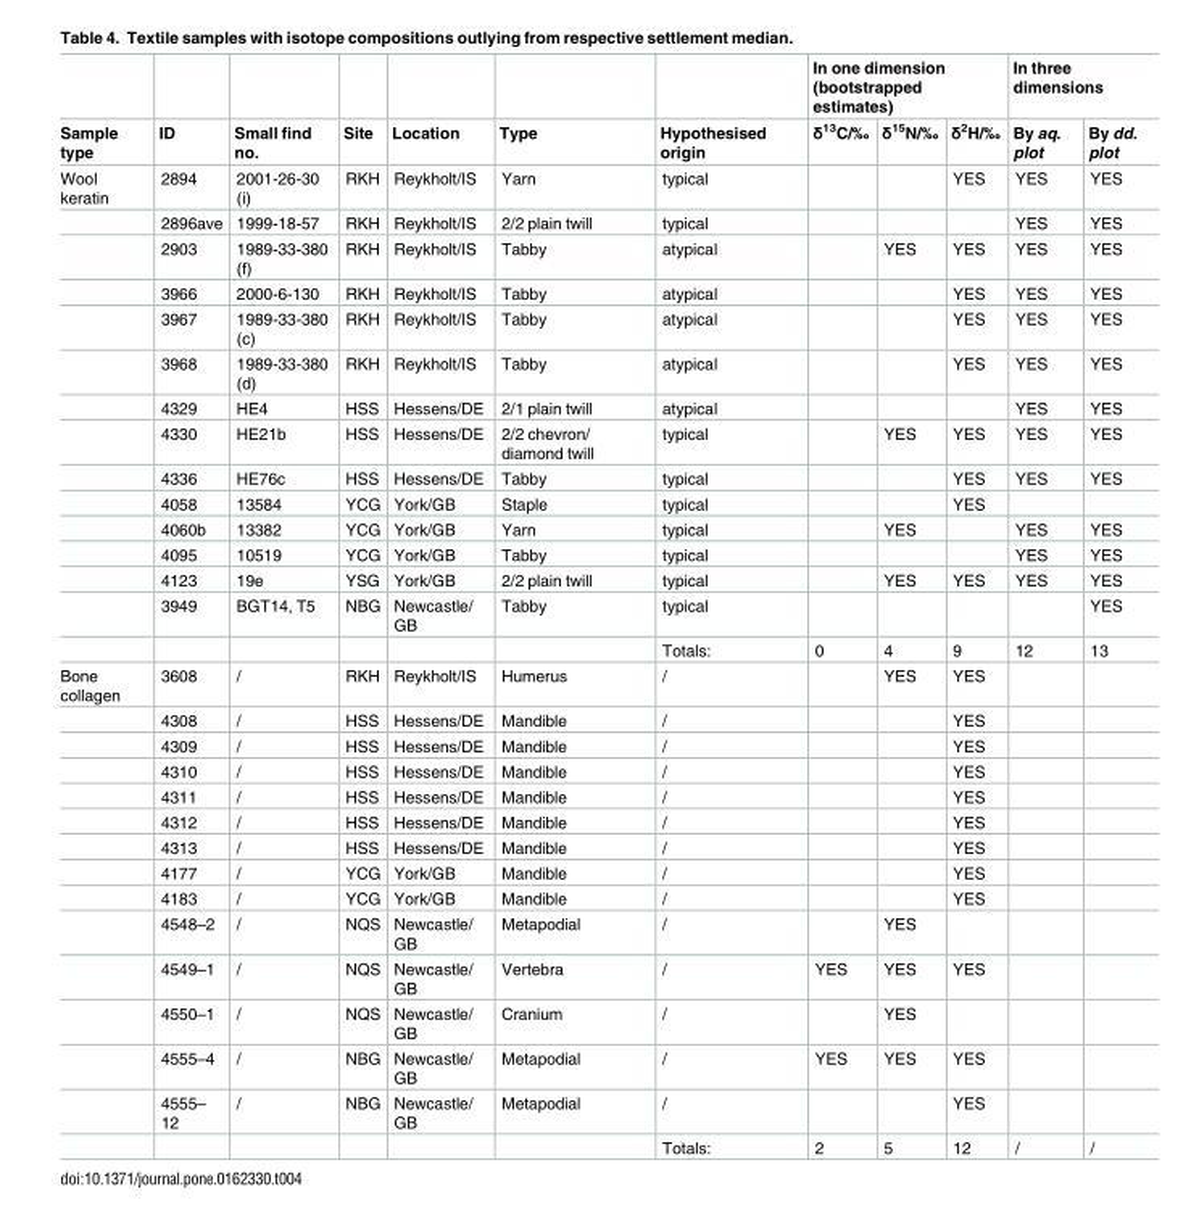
<table><thead><tr><td rowspan="2">Sample type</td><td rowspan="2">ID</td><td rowspan="2">Small find no.</td><td rowspan="2">Site</td><td rowspan="2">Location</td><td rowspan="2">Type</td><td rowspan="2">Hypothesised origin</td><td colspan="3">In one dimension (bootstrapped estimates)</td><td colspan="2">In three dimensions</td></tr><tr><td>δ<sup>13</sup>C/‰</td><td>δ<sup>15</sup>N/‰</td><td>δ<sup>2</sup>H/‰</td><td>By aq. plot</td><td>By dd. plot</td></tr></thead><tbody><tr><td rowspan="15">Wool keratin</td><td>2894</td><td>2001-26-30 (i)</td><td>RKH</td><td>Reykholt/IS</td><td>Yarn</td><td>typical</td><td></td><td></td><td>YES</td><td>YES</td><td>YES</td></tr><tr><td>2896ave</td><td>1999-18-57</td><td>RKH</td><td>Reykholt/IS</td><td>2/2 plain twill</td><td>typical</td><td></td><td></td><td></td><td>YES</td><td>YES</td></tr><tr><td>2903</td><td>1989-33-380 (f)</td><td>RKH</td><td>Reykholt/IS</td><td>Tabby</td><td>atypical</td><td></td><td>YES</td><td>YES</td><td>YES</td><td>YES</td></tr><tr><td>3966</td><td>2000-6-130</td><td>RKH</td><td>Reykholt/IS</td><td>Tabby</td><td>atypical</td><td></td><td></td><td>YES</td><td>YES</td><td>YES</td></tr><tr><td>3967</td><td>1989-33-380 (c)</td><td>RKH</td><td>Reykholt/IS</td><td>Tabby</td><td>atypical</td><td></td><td></td><td>YES</td><td>YES</td><td>YES</td></tr><tr><td>3968</td><td>1989-33-380 (d)</td><td>RKH</td><td>Reykholt/IS</td><td>Tabby</td><td>atypical</td><td></td><td></td><td>YES</td><td>YES</td><td>YES</td></tr><tr><td>4329</td><td>HE4</td><td>HSS</td><td>Hessens/DE</td><td>2/1 plain twill</td><td>atypical</td><td></td><td></td><td></td><td>YES</td><td>YES</td></tr><tr><td>4330</td><td>HE21b</td><td>HSS</td><td>Hessens/DE</td><td>2/2 chevron/ diamond twill</td><td>typical</td><td></td><td>YES</td><td>YES</td><td>YES</td><td>YES</td></tr><tr><td>4336</td><td>HE76c</td><td>HSS</td><td>Hessens/DE</td><td>Tabby</td><td>typical</td><td></td><td></td><td>YES</td><td>YES</td><td>YES</td></tr><tr><td>4058</td><td>13584</td><td>YCG</td><td>York/GB</td><td>Staple</td><td>typical</td><td></td><td></td><td>YES</td><td></td><td></td></tr><tr><td>4060b</td><td>13382</td><td>YCG</td><td>York/GB</td><td>Yarn</td><td>typical</td><td></td><td>YES</td><td></td><td>YES</td><td>YES</td></tr><tr><td>4095</td><td>10519</td><td>YCG</td><td>York/GB</td><td>Tabby</td><td>typical</td><td></td><td></td><td></td><td>YES</td><td>YES</td></tr><tr><td>4123</td><td>19e</td><td>YSG</td><td>York/GB</td><td>2/2 plain twill</td><td>typical</td><td></td><td>YES</td><td>YES</td><td>YES</td><td>YES</td></tr><tr><td>3949</td><td>BGT14, T5</td><td>NBG</td><td>Newcastle/ GB</td><td>Tabby</td><td>typical</td><td></td><td></td><td></td><td></td><td>YES</td></tr><tr><td></td><td></td><td></td><td></td><td></td><td>Totals:</td><td>0</td><td>4</td><td>9</td><td>12</td><td>13</td></tr><tr><td rowspan="15">Bone collagen</td><td>3608</td><td>/</td><td>RKH</td><td>Reykholt/IS</td><td>Humerus</td><td>/</td><td></td><td>YES</td><td>YES</td><td></td><td></td></tr><tr><td>4308</td><td>/</td><td>HSS</td><td>Hessens/DE</td><td>Mandible</td><td>/</td><td></td><td></td><td>YES</td><td></td><td></td></tr><tr><td>4309</td><td>/</td><td>HSS</td><td>Hessens/DE</td><td>Mandible</td><td>/</td><td></td><td></td><td>YES</td><td></td><td></td></tr><tr><td>4310</td><td>/</td><td>HSS</td><td>Hessens/DE</td><td>Mandible</td><td>/</td><td></td><td></td><td>YES</td><td></td><td></td></tr><tr><td>4311</td><td>/</td><td>HSS</td><td>Hessens/DE</td><td>Mandible</td><td>/</td><td></td><td></td><td>YES</td><td></td><td></td></tr><tr><td>4312</td><td>/</td><td>HSS</td><td>Hessens/DE</td><td>Mandible</td><td>/</td><td></td><td></td><td>YES</td><td></td><td></td></tr><tr><td>4313</td><td>/</td><td>HSS</td><td>Hessens/DE</td><td>Mandible</td><td>/</td><td></td><td></td><td>YES</td><td></td><td></td></tr><tr><td>4177</td><td>/</td><td>YCG</td><td>York/GB</td><td>Mandible</td><td>/</td><td></td><td></td><td>YES</td><td></td><td></td></tr><tr><td>4183</td><td>/</td><td>YCG</td><td>York/GB</td><td>Mandible</td><td>/</td><td></td><td></td><td>YES</td><td></td><td></td></tr><tr><td>4548–2</td><td>/</td><td>NQS</td><td>Newcastle/ GB</td><td>Metapodial</td><td>/</td><td></td><td>YES</td><td></td><td></td><td></td></tr><tr><td>4549–1</td><td>/</td><td>NQS</td><td>Newcastle/ GB</td><td>Vertebra</td><td>/</td><td>YES</td><td>YES</td><td>YES</td><td></td><td></td></tr><tr><td>4550–1</td><td>/</td><td>NQS</td><td>Newcastle/ GB</td><td>Cranium</td><td>/</td><td></td><td>YES</td><td></td><td></td><td></td></tr><tr><td>4555–4</td><td>/</td><td>NBG</td><td>Newcastle/ GB</td><td>Metapodial</td><td>/</td><td>YES</td><td>YES</td><td>YES</td><td></td><td></td></tr><tr><td>4555– 12</td><td>/</td><td>NBG</td><td>Newcastle/ GB</td><td>Metapodial</td><td>/</td><td></td><td></td><td>YES</td><td></td><td></td></tr><tr><td></td><td></td><td></td><td></td><td></td><td>Totals:</td><td>2</td><td>5</td><td>12</td><td>/</td><td>/</td></tr></tbody></table>